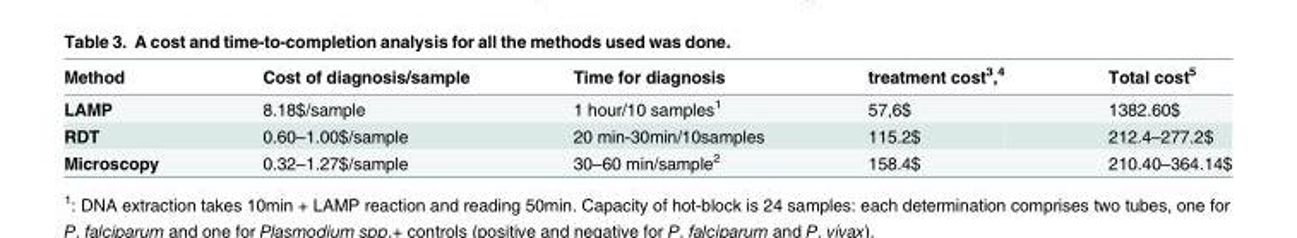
<table><thead><tr><td>Method</td><td>Cost of diagnosis/sample</td><td>Time for diagnosis</td><td>treatment cost<sup>3</sup>,<sup>4</sup></td><td>Total cost<sup>5</sup></td></tr></thead><tbody><tr><td>LAMP</td><td>8.18$/sample</td><td>1 hour/10 samples<sup>1</sup></td><td>57,6$</td><td>1382.60$</td></tr><tr><td>RDT</td><td>0.60–1.00$/sample</td><td>20 min-30min/10samples</td><td>115.2$</td><td>212.4–277.2$</td></tr><tr><td>Microscopy</td><td>0.32–1.27$/sample</td><td>30–60 min/sample<sup>2</sup></td><td>158.4$</td><td>210.40–364.14$</td></tr></tbody></table>